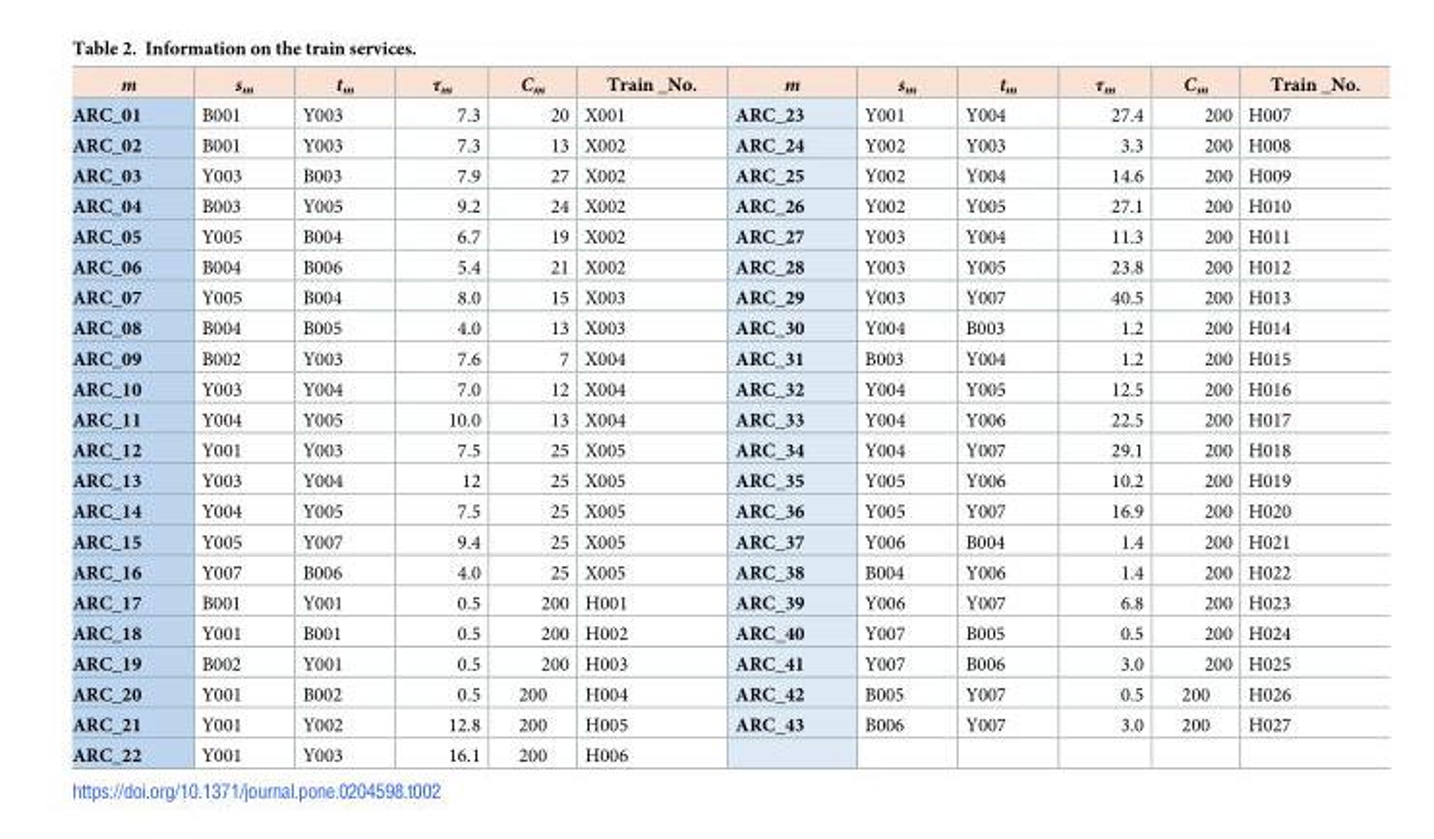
<table><thead><tr><td>m</td><td>s<sub>m</sub></td><td>t<sub>m</sub></td><td>τ<sub>m</sub></td><td>C<sub>m</sub></td><td>Train _No.</td><td>m</td><td>s<sub>m</sub></td><td>t<sub>m</sub></td><td>τ<sub>m</sub></td><td>C<sub>m</sub></td><td>Train _No.</td></tr></thead><tbody><tr><td>ARC_01</td><td>B001</td><td>Y003</td><td>7.3</td><td>20</td><td>X001</td><td>ARC_23</td><td>Y001</td><td>Y004</td><td>27.4</td><td>200</td><td>H007</td></tr><tr><td>ARC_02</td><td>B001</td><td>Y003</td><td>7.3</td><td>13</td><td>X002</td><td>ARC_24</td><td>Y002</td><td>Y003</td><td>3.3</td><td>200</td><td>H008</td></tr><tr><td>ARC_03</td><td>Y003</td><td>B003</td><td>7.9</td><td>27</td><td>X002</td><td>ARC_25</td><td>Y002</td><td>Y004</td><td>14.6</td><td>200</td><td>H009</td></tr><tr><td>ARC_04</td><td>B003</td><td>Y005</td><td>9.2</td><td>24</td><td>X002</td><td>ARC_26</td><td>Y002</td><td>Y005</td><td>27.1</td><td>200</td><td>H010</td></tr><tr><td>ARC_05</td><td>Y005</td><td>B004</td><td>6.7</td><td>19</td><td>X002</td><td>ARC_27</td><td>Y003</td><td>Y004</td><td>11.3</td><td>200</td><td>H011</td></tr><tr><td>ARC_06</td><td>B004</td><td>B006</td><td>5.4</td><td>21</td><td>X002</td><td>ARC_28</td><td>Y003</td><td>Y005</td><td>23.8</td><td>200</td><td>H012</td></tr><tr><td>ARC_07</td><td>Y005</td><td>B004</td><td>8.0</td><td>15</td><td>X003</td><td>ARC_29</td><td>Y003</td><td>Y007</td><td>40.5</td><td>200</td><td>H013</td></tr><tr><td>ARC_08</td><td>B004</td><td>B005</td><td>4.0</td><td>13</td><td>X003</td><td>ARC_30</td><td>Y004</td><td>B003</td><td>1.2</td><td>200</td><td>H014</td></tr><tr><td>ARC_09</td><td>B002</td><td>Y003</td><td>7.6</td><td>7</td><td>X004</td><td>ARC_31</td><td>B003</td><td>Y004</td><td>1.2</td><td>200</td><td>H015</td></tr><tr><td>ARC_10</td><td>Y003</td><td>Y004</td><td>7.0</td><td>12</td><td>X004</td><td>ARC_32</td><td>Y004</td><td>Y005</td><td>12.5</td><td>200</td><td>H016</td></tr><tr><td>ARC_11</td><td>Y004</td><td>Y005</td><td>10.0</td><td>13</td><td>X004</td><td>ARC_33</td><td>Y004</td><td>Y006</td><td>22.5</td><td>200</td><td>H017</td></tr><tr><td>ARC_12</td><td>Y001</td><td>Y003</td><td>7.5</td><td>25</td><td>X005</td><td>ARC_34</td><td>Y004</td><td>Y007</td><td>29.1</td><td>200</td><td>H018</td></tr><tr><td>ARC_13</td><td>Y003</td><td>Y004</td><td>12</td><td>25</td><td>X005</td><td>ARC_35</td><td>Y005</td><td>Y006</td><td>10.2</td><td>200</td><td>H019</td></tr><tr><td>ARC_14</td><td>Y004</td><td>Y005</td><td>7.5</td><td>25</td><td>X005</td><td>ARC_36</td><td>Y005</td><td>Y007</td><td>16.9</td><td>200</td><td>H020</td></tr><tr><td>ARC_15</td><td>Y005</td><td>Y007</td><td>9.4</td><td>25</td><td>X005</td><td>ARC_37</td><td>Y006</td><td>B004</td><td>1.4</td><td>200</td><td>H021</td></tr><tr><td>ARC_16</td><td>Y007</td><td>B006</td><td>4.0</td><td>25</td><td>X005</td><td>ARC_38</td><td>B004</td><td>Y006</td><td>1.4</td><td>200</td><td>H022</td></tr><tr><td>ARC_17</td><td>B001</td><td>Y001</td><td>0.5</td><td>200</td><td>H001</td><td>ARC_39</td><td>Y006</td><td>Y007</td><td>6.8</td><td>200</td><td>H023</td></tr><tr><td>ARC_18</td><td>Y001</td><td>B001</td><td>0.5</td><td>200</td><td>H002</td><td>ARC_40</td><td>Y007</td><td>B005</td><td>0.5</td><td>200</td><td>H024</td></tr><tr><td>ARC_19</td><td>B002</td><td>Y001</td><td>0.5</td><td>200</td><td>H003</td><td>ARC_41</td><td>Y007</td><td>B006</td><td>3.0</td><td>200</td><td>H025</td></tr><tr><td>ARC_20</td><td>Y001</td><td>B002</td><td>0.5</td><td>200</td><td>H004</td><td>ARC_42</td><td>B005</td><td>Y007</td><td>0.5</td><td>200</td><td>H026</td></tr><tr><td>ARC_21</td><td>Y001</td><td>Y002</td><td>12.8</td><td>200</td><td>H005</td><td>ARC_43</td><td>B006</td><td>Y007</td><td>3.0</td><td>200</td><td>H027</td></tr><tr><td>ARC_22</td><td>Y001</td><td>Y003</td><td>16.1</td><td>200</td><td>H006</td><td></td><td></td><td></td><td></td><td></td><td></td></tr></tbody></table>